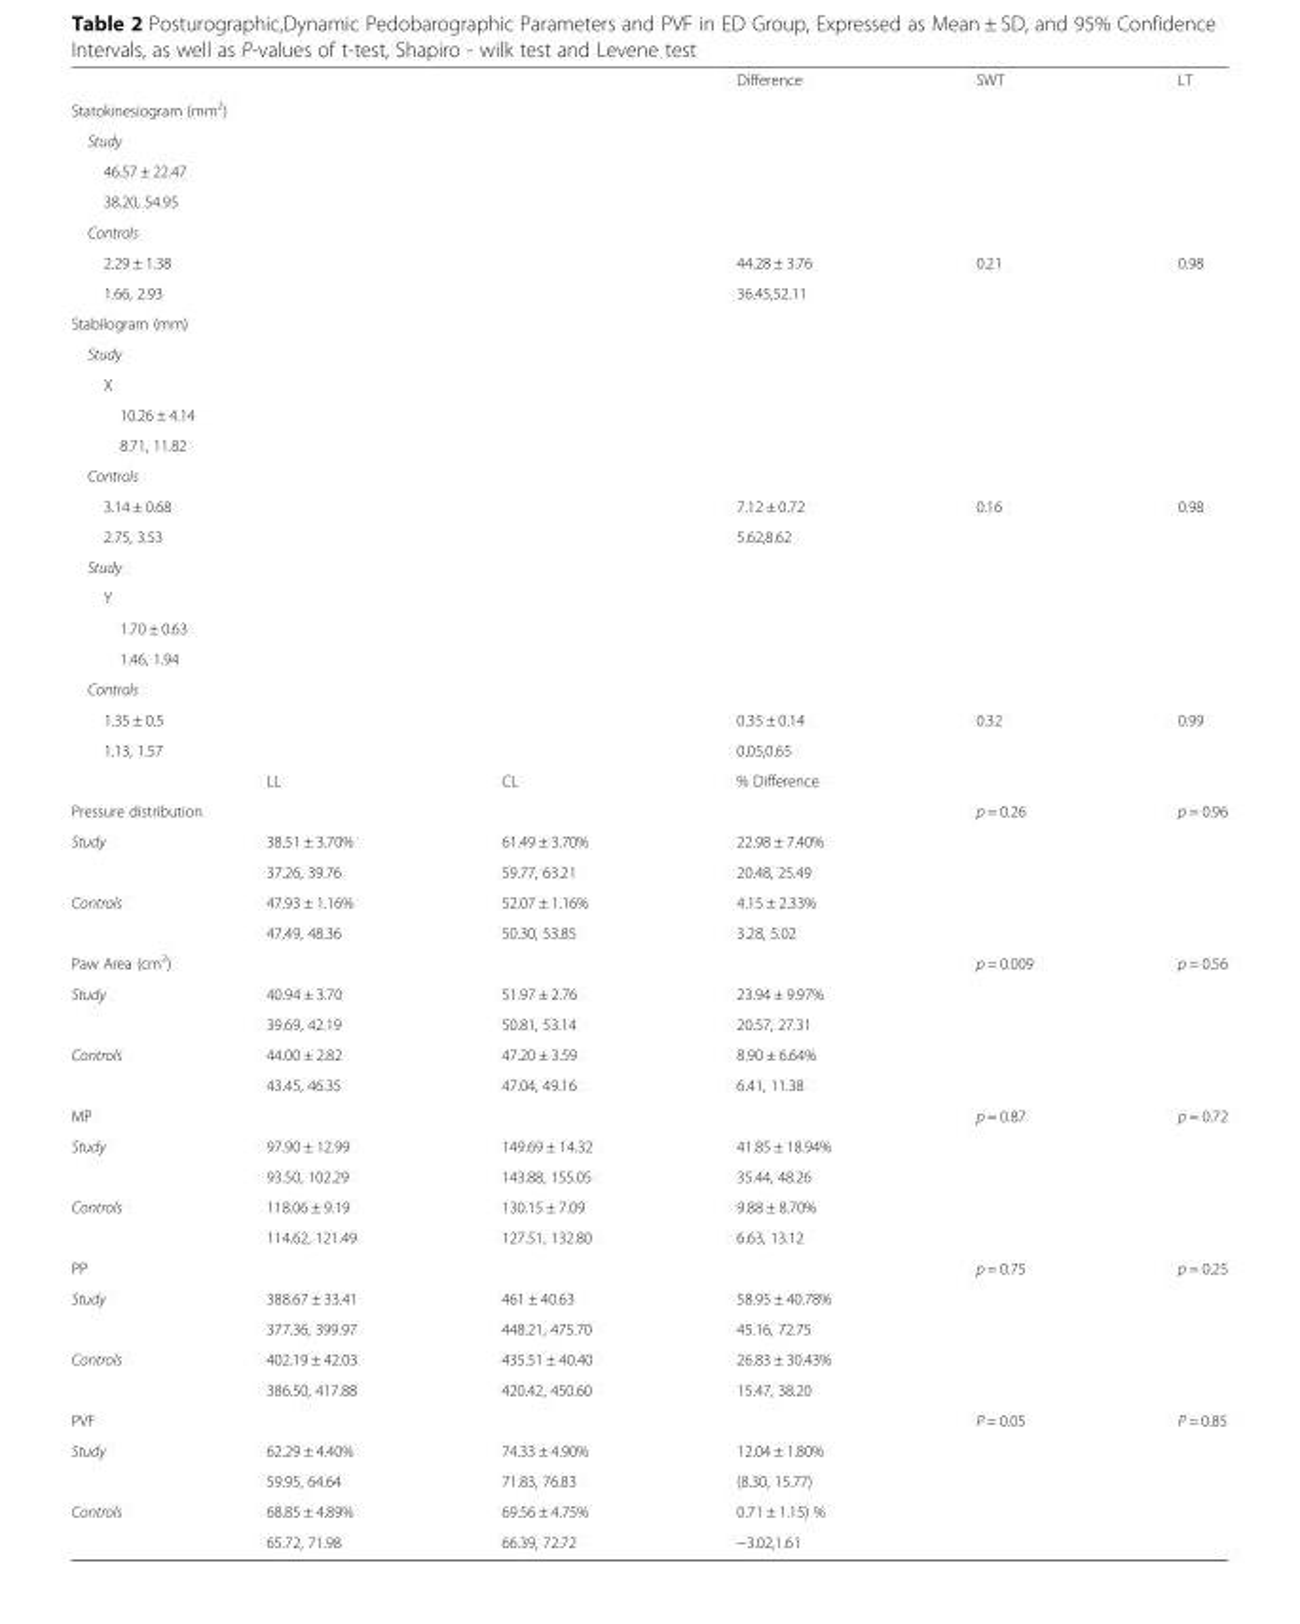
<table><thead><tr><td></td><td></td><td></td><td>Difference</td><td>SWT</td><td>LT</td></tr></thead><tbody><tr><td colspan="6">Statokinesiogram (mm<sup>2</sup>)</td></tr><tr><td colspan="6">Study</td></tr><tr><td colspan="5">46.57 ± 22.47</td><td rowspan="2"></td></tr><tr><td colspan="5">38.20, 54.95</td></tr><tr><td colspan="6">Controls</td></tr><tr><td colspan="3">2.29 ± 1.38</td><td>44.28 ± 3.76</td><td>0.21</td><td>0.98</td></tr><tr><td colspan="3">1.66, 2.93</td><td>36.45,52.11</td><td></td><td></td></tr><tr><td colspan="6">Stabilogram (mm)</td></tr><tr><td colspan="6">Study</td></tr><tr><td colspan="6">X</td></tr><tr><td colspan="5">10.26 ± 4.14</td><td rowspan="2"></td></tr><tr><td colspan="5">8.71, 11.82</td></tr><tr><td colspan="6">Controls</td></tr><tr><td colspan="3">3.14 ± 0.68</td><td>7.12 ± 0.72</td><td>0.16</td><td>0.98</td></tr><tr><td colspan="3">2.75, 3.53</td><td>5.62,8.62</td><td></td><td></td></tr><tr><td colspan="6">Study</td></tr><tr><td colspan="6">Y</td></tr><tr><td colspan="6">1.70 ± 0.63</td></tr><tr><td colspan="6">1.46, 1.94</td></tr><tr><td colspan="6">Controls</td></tr><tr><td colspan="3">1.35 ± 0.5</td><td>0.35 ± 0.14</td><td>0.32</td><td>0.99</td></tr><tr><td colspan="3">1.13, 1.57</td><td>0.05,0.65</td><td></td><td></td></tr><tr><td></td><td>LL</td><td>CL</td><td>% Difference</td><td></td><td></td></tr><tr><td colspan="4">Pressure distribution</td><td>p = 0.26</td><td>p = 0.96</td></tr><tr><td rowspan="2">Study</td><td>38.51 ± 3.70%</td><td>61.49 ± 3.70%</td><td>22.98 ± 7.40%</td><td rowspan="4"></td><td rowspan="4"></td></tr><tr><td>37.26, 39.76</td><td>59.77, 63.21</td><td>20.48, 25.49</td></tr><tr><td rowspan="2">Controls</td><td>47.93 ± 1.16%</td><td>52.07 ± 1.16%</td><td>4.15 ± 2.33%</td></tr><tr><td>47.49, 48.36</td><td>50.30, 53.85</td><td>3.28, 5.02</td></tr><tr><td colspan="4">Paw Area (cm<sup>2</sup>)</td><td>p = 0.009</td><td>p = 0.56</td></tr><tr><td rowspan="2">Study</td><td>40.94 ± 3.70</td><td>51.97 ± 2.76</td><td>23.94 ± 9.97%</td><td></td><td rowspan="2"></td></tr><tr><td>39.69, 42.19</td><td>50.81, 53.14</td><td>20.57, 27.31</td><td></td></tr><tr><td rowspan="2">Controls</td><td>44.00 ± 2.82</td><td>47.20 ± 3.59</td><td>8.90 ± 6.64%</td><td></td><td rowspan="2"></td></tr><tr><td>43.45, 46.35</td><td>47.04, 49.16</td><td>6.41, 11.38</td><td></td></tr><tr><td colspan="4">MP</td><td>p = 0.87</td><td>p = 0.72</td></tr><tr><td rowspan="2">Study</td><td>97.90 ± 12.99</td><td>149.69 ± 14.32</td><td>41.85 ± 18.94%</td><td></td><td rowspan="2"></td></tr><tr><td>93.50, 102.29</td><td>143.88, 155.05</td><td>35.44, 48.26</td><td></td></tr><tr><td rowspan="2">Controls</td><td>118.06 ± 9.19</td><td>130.15 ± 7.09</td><td>9.88 ± 8.70%</td><td></td><td rowspan="2"></td></tr><tr><td>114.62, 121.49</td><td>127.51, 132.80</td><td>6.63, 13.12</td><td></td></tr><tr><td colspan="4">PP</td><td>p = 0.75</td><td>p = 0.25</td></tr><tr><td rowspan="2">Study</td><td>388.67 ± 33.41</td><td>461 ± 40.63</td><td>58.95 ± 40.78%</td><td></td><td rowspan="2"></td></tr><tr><td>377.36, 399.97</td><td>448.21, 475.70</td><td>45.16, 72.75</td><td></td></tr><tr><td rowspan="2">Controls</td><td>402.19 ± 42.03</td><td>435.51 ± 40.40</td><td>26.83 ± 30.43%</td><td></td><td rowspan="2"></td></tr><tr><td>386.50, 417.88</td><td>420.42, 450.60</td><td>15.47, 38.20</td><td></td></tr><tr><td colspan="4">PVF</td><td>P = 0.05</td><td>P = 0.85</td></tr><tr><td rowspan="2">Study</td><td>62.29 ± 4.40%</td><td>74.33 ± 4.90%</td><td>12.04 ± 1.80%</td><td></td><td rowspan="2"></td></tr><tr><td>59.95, 64.64</td><td>71.83, 76.83</td><td>(8.30, 15.77)</td><td></td></tr><tr><td rowspan="2">Controls</td><td>68.85 ± 4.89%</td><td>69.56 ± 4.75%</td><td>0.71 ± 1.15) %</td><td></td><td rowspan="2"></td></tr><tr><td>65.72, 71.98</td><td>66.39, 72.72</td><td>−3.02,1.61</td><td></td></tr></tbody></table>